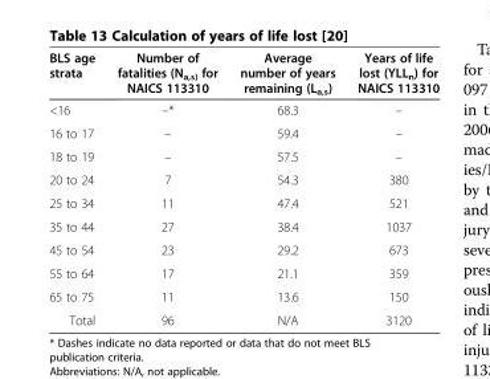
<table><thead><tr><td>BLS age strata</td><td>Number of fatalities (N<sub>a,s)</sub> for NAICS 113310</td><td>Average number of years remaining (L<sub>a,s</sub>)</td><td>Years of life lost (YLL<sub>n</sub>) for NAICS 113310</td></tr></thead><tbody><tr><td>&lt;16</td><td>–*</td><td>68.3</td><td>–</td></tr><tr><td>16 to 17</td><td>–</td><td>59.4</td><td>–</td></tr><tr><td>18 to 19</td><td>–</td><td>57.5</td><td>–</td></tr><tr><td>20 to 24</td><td>7</td><td>54.3</td><td>380</td></tr><tr><td>25 to 34</td><td>11</td><td>47.4</td><td>521</td></tr><tr><td>35 to 44</td><td>27</td><td>38.4</td><td>1037</td></tr><tr><td>45 to 54</td><td>23</td><td>29.2</td><td>673</td></tr><tr><td>55 to 64</td><td>17</td><td>21.1</td><td>359</td></tr><tr><td>65 to 75</td><td>11</td><td>13.6</td><td>150</td></tr><tr><td>Total</td><td>96</td><td>N/A</td><td>3120</td></tr></tbody></table>